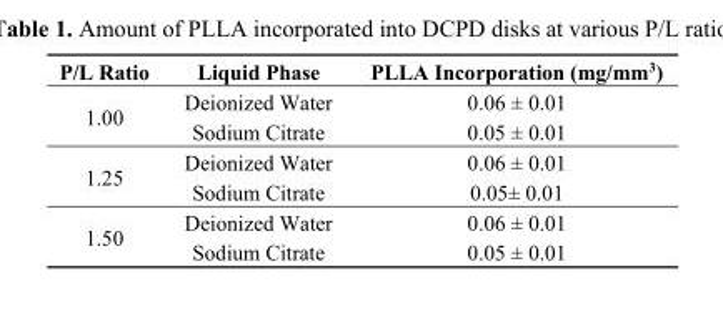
<table><thead><tr><td>P/L Ratio</td><td>Liquid Phase</td><td>PLLA Incorporation (mg/mm<sup>3</sup>)</td></tr></thead><tbody><tr><td rowspan="2">1.00</td><td>Deionized Water</td><td>0.06 ± 0.01</td></tr><tr><td>Sodium Citrate</td><td>0.05 ± 0.01</td></tr><tr><td rowspan="2">1.25</td><td>Deionized Water</td><td>0.06 ± 0.01</td></tr><tr><td>Sodium Citrate</td><td>0.05± 0.01</td></tr><tr><td rowspan="2">1.50</td><td>Deionized Water</td><td>0.06 ± 0.01</td></tr><tr><td>Sodium Citrate</td><td>0.05 ± 0.01</td></tr></tbody></table>